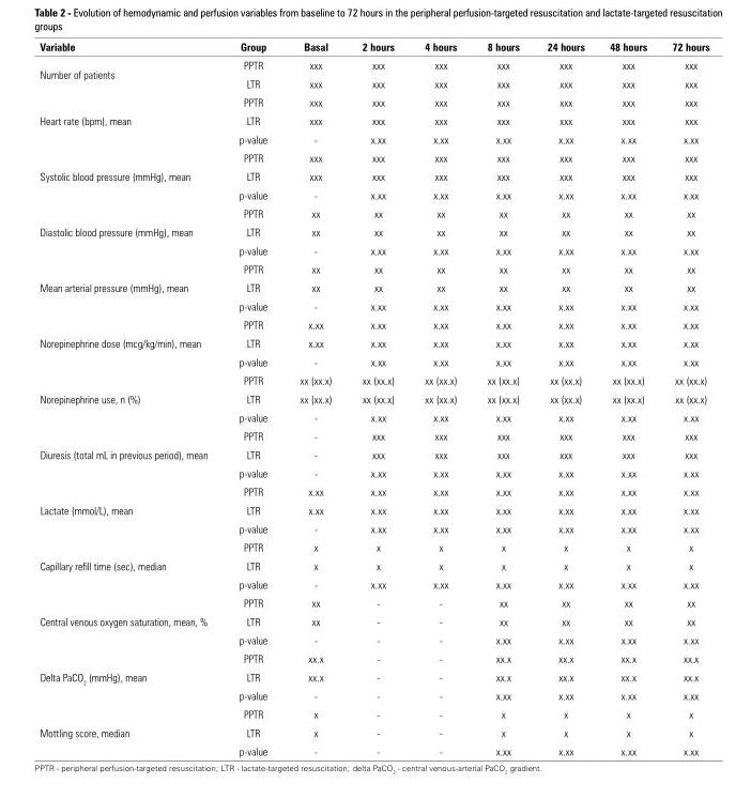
<table><thead><tr><td>Variable</td><td>Group</td><td>Basal</td><td>2 hours</td><td>4 hours</td><td>8 hours</td><td>24 hours</td><td>48 hours</td><td>72 hours</td></tr></thead><tbody><tr><td rowspan="2">Number of patients</td><td>PPTR</td><td>xxx</td><td>xxx</td><td>xxx</td><td>xxx</td><td>xxx</td><td>xxx</td><td>xxx</td></tr><tr><td>LTR</td><td>xxx</td><td>xxx</td><td>xxx</td><td>xxx</td><td>xxx</td><td>xxx</td><td>xxx</td></tr><tr><td rowspan="3">Heart rate (bpm), mean</td><td>PPTR</td><td>xxx</td><td>xxx</td><td>xxx</td><td>xxx</td><td>xxx</td><td>xxx</td><td>xxx</td></tr><tr><td>LTR</td><td>xxx</td><td>xxx</td><td>xxx</td><td>xxx</td><td>xxx</td><td>xxx</td><td>xxx</td></tr><tr><td>p-value</td><td>-</td><td>x.xx</td><td>x.xx</td><td>x.xx</td><td>x.xx</td><td>x.xx</td><td>x.xx</td></tr><tr><td rowspan="3">Systolic blood pressure (mmHg), mean</td><td>PPTR</td><td>xxx</td><td>xxx</td><td>xxx</td><td>xxx</td><td>xxx</td><td>xxx</td><td>xxx</td></tr><tr><td>LTR</td><td>xxx</td><td>xxx</td><td>xxx</td><td>xxx</td><td>xxx</td><td>xxx</td><td>xxx</td></tr><tr><td>p-value</td><td>-</td><td>x.xx</td><td>x.xx</td><td>x.xx</td><td>x.xx</td><td>x.xx</td><td>x.xx</td></tr><tr><td rowspan="3">Diastolic blood pressure (mmHg), mean</td><td>PPTR</td><td>xx</td><td>xx</td><td>xx</td><td>xx</td><td>xx</td><td>xx</td><td>xx</td></tr><tr><td>LTR</td><td>xx</td><td>xx</td><td>xx</td><td>xx</td><td>xx</td><td>xx</td><td>xx</td></tr><tr><td>p-value</td><td>-</td><td>x.xx</td><td>x.xx</td><td>x.xx</td><td>x.xx</td><td>x.xx</td><td>x.xx</td></tr><tr><td rowspan="3">Mean arterial pressure (mmHg), mean</td><td>PPTR</td><td>xx</td><td>xx</td><td>xx</td><td>xx</td><td>xx</td><td>xx</td><td>xx</td></tr><tr><td>LTR</td><td>xx</td><td>xx</td><td>xx</td><td>xx</td><td>xx</td><td>xx</td><td>xx</td></tr><tr><td>p-value</td><td>-</td><td>x.xx</td><td>x.xx</td><td>x.xx</td><td>x.xx</td><td>x.xx</td><td>x.xx</td></tr><tr><td rowspan="3">Norepinephrine dose (mcg/kg/min), mean</td><td>PPTR</td><td>x.xx</td><td>x.xx</td><td>x.xx</td><td>x.xx</td><td>x.xx</td><td>x.xx</td><td>x.xx</td></tr><tr><td>LTR</td><td>x.xx</td><td>x.xx</td><td>x.xx</td><td>x.xx</td><td>x.xx</td><td>x.xx</td><td>x.xx</td></tr><tr><td>p-value</td><td>-</td><td>x.xx</td><td>x.xx</td><td>x.xx</td><td>x.xx</td><td>x.xx</td><td>x.xx</td></tr><tr><td rowspan="3">Norepinephrine use, n (%)</td><td>PPTR</td><td>xx (xx.x)</td><td>xx (xx.x)</td><td>xx (xx.x)</td><td>xx (xx.x)</td><td>xx (xx.x)</td><td>xx (xx.x)</td><td>xx (xx.x)</td></tr><tr><td>LTR</td><td>xx (xx.x)</td><td>xx (xx.x)</td><td>xx (xx.x)</td><td>xx (xx.x)</td><td>xx (xx.x)</td><td>xx (xx.x)</td><td>xx (xx.x)</td></tr><tr><td>p-value</td><td>-</td><td>x.xx</td><td>x.xx</td><td>x.xx</td><td>x.xx</td><td>x.xx</td><td>x.xx</td></tr><tr><td rowspan="3">Diuresis (total mL in previous period), mean</td><td>PPTR</td><td>-</td><td>xxx</td><td>xxx</td><td>xxx</td><td>xxx</td><td>xxx</td><td>xxx</td></tr><tr><td>LTR</td><td>-</td><td>xxx</td><td>xxx</td><td>xxx</td><td>xxx</td><td>xxx</td><td>xxx</td></tr><tr><td>p-value</td><td>-</td><td>x.xx</td><td>x.xx</td><td>x.xx</td><td>x.xx</td><td>x.xx</td><td>x.xx</td></tr><tr><td rowspan="3">Lactate (mmol/L), mean</td><td>PPTR</td><td>x.xx</td><td>x.xx</td><td>x.xx</td><td>x.xx</td><td>x.xx</td><td>x.xx</td><td>x.xx</td></tr><tr><td>LTR</td><td>x.xx</td><td>x.xx</td><td>x.xx</td><td>x.xx</td><td>x.xx</td><td>x.xx</td><td>x.xx</td></tr><tr><td>p-value</td><td>-</td><td>x.xx</td><td>x.xx</td><td>x.xx</td><td>x.xx</td><td>x.xx</td><td>x.xx</td></tr><tr><td rowspan="3">Capillary refill time (sec), median</td><td>PPTR</td><td>x</td><td>x</td><td>x</td><td>x</td><td>x</td><td>x</td><td>x</td></tr><tr><td>LTR</td><td>x</td><td>x</td><td>x</td><td>x</td><td>x</td><td>x</td><td>x</td></tr><tr><td>p-value</td><td>-</td><td>x.xx</td><td>x.xx</td><td>x.xx</td><td>x.xx</td><td>x.xx</td><td>x.xx</td></tr><tr><td rowspan="3">Central venous oxygen saturation, mean, %</td><td>PPTR</td><td>xx</td><td>-</td><td>-</td><td>xx</td><td>xx</td><td>xx</td><td>xx</td></tr><tr><td>LTR</td><td>xx</td><td>-</td><td>-</td><td>xx</td><td>xx</td><td>xx</td><td>xx</td></tr><tr><td>p-value</td><td>-</td><td>-</td><td>-</td><td>x.xx</td><td>x.xx</td><td>x.xx</td><td>x.xx</td></tr><tr><td rowspan="3">Delta PaCO<sub>2</sub> (mmHg), mean</td><td>PPTR</td><td>xx.x</td><td>-</td><td>-</td><td>xx.x</td><td>xx.x</td><td>xx.x</td><td>xx.x</td></tr><tr><td>LTR</td><td>xx.x</td><td>-</td><td>-</td><td>xx.x</td><td>xx.x</td><td>xx.x</td><td>xx.x</td></tr><tr><td>p-value</td><td>-</td><td>-</td><td>-</td><td>x.xx</td><td>x.xx</td><td>x.xx</td><td>x.xx</td></tr><tr><td rowspan="3">Mottling score, median</td><td>PPTR</td><td>x</td><td>-</td><td>-</td><td>x</td><td>x</td><td>x</td><td>x</td></tr><tr><td>LTR</td><td>x</td><td>-</td><td>-</td><td>x</td><td>x</td><td>x</td><td>x</td></tr><tr><td>p-value</td><td>-</td><td>-</td><td>-</td><td>x.xx</td><td>x.xx</td><td>x.xx</td><td>x.xx</td></tr></tbody></table>